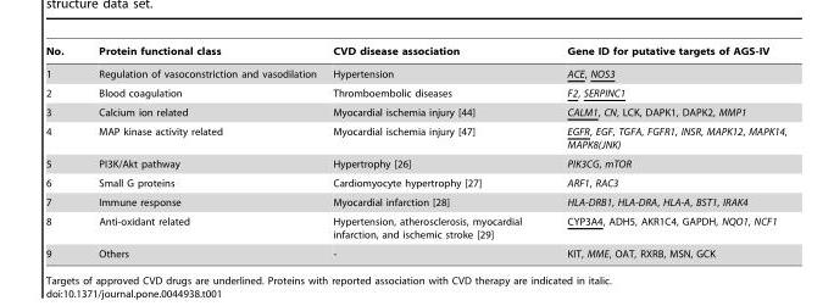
<table><thead><tr><td>No.</td><td>Protein functional class</td><td>CVD disease association</td><td>Gene ID for putative targets of AGS-IV</td></tr></thead><tbody><tr><td>1</td><td>Regulation of vasoconstriction and vasodilation</td><td>Hypertension</td><td>ACE, NOS3</td></tr><tr><td>2</td><td>Blood coagulation</td><td>Thromboembolic diseases</td><td>F2, SERPINC1</td></tr><tr><td>3</td><td>Calcium ion related</td><td>Myocardial ischemia injury [44]</td><td>CALM1, CN, LCK, DAPK1, DAPK2, MMP1</td></tr><tr><td>4</td><td>MAP kinase activity related</td><td>Myocardial ischemia injury [47]</td><td>EGFR, EGF, TGFA, FGFR1, INSR, MAPK12, MAPK14, MAPK8(JNK)</td></tr><tr><td>5</td><td>PI3K/Akt pathway</td><td>Hypertrophy [26]</td><td>PIK3CG, mTOR</td></tr><tr><td>6</td><td>Small G proteins</td><td>Cardiomyocyte hypertrophy [27]</td><td>ARF1, RAC3</td></tr><tr><td>7</td><td>Immune response</td><td>Myocardial infarction [28]</td><td>HLA-DRB1, HLA-DRA, HLA-A, BST1, IRAK4</td></tr><tr><td>8</td><td>Anti-oxidant related</td><td>Hypertension, atherosclerosis, myocardial infarction, and ischemic stroke [29]</td><td>CYP3A4, ADH5, AKR1C4, GAPDH, NQO1, NCF1</td></tr><tr><td>9</td><td>Others</td><td>-</td><td>KIT, MME, OAT, RXRB, MSN, GCK</td></tr></tbody></table>